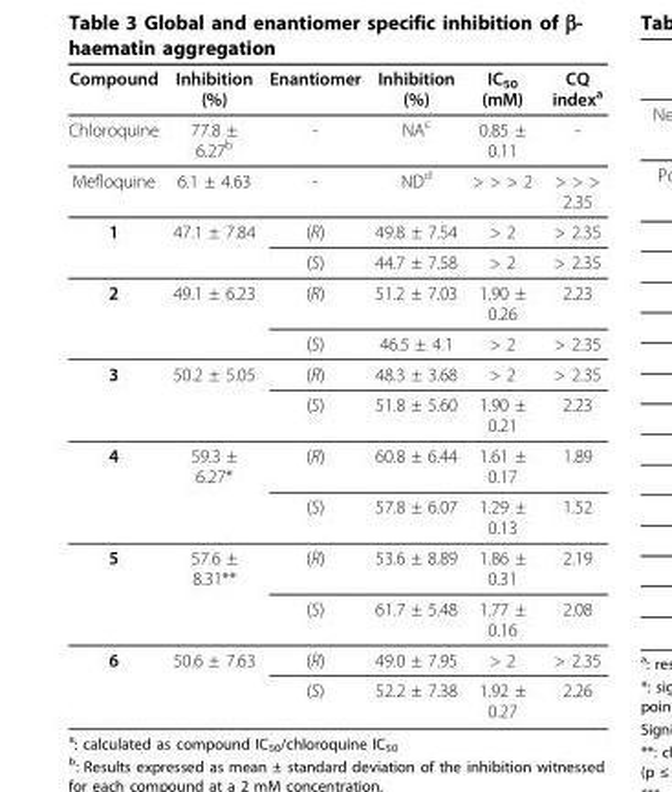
<table><thead><tr><td>Compound</td><td>Inhibition (%)</td><td>Enantiomer</td><td>Inhibition (%)</td><td>IC<sub>50</sub> (mM)</td><td>CQ index<sup>a</sup></td></tr></thead><tbody><tr><td>Chloroquine</td><td>77.8 ± 6.27<sup>b</sup></td><td>-</td><td>NA<sup>c</sup></td><td>0.85 ± 0.11</td><td>-</td></tr><tr><td>Mefloquine</td><td>6.1 ± 4.63</td><td>-</td><td>ND<sup>d</sup></td><td>&gt; &gt; &gt; 2</td><td>&gt; &gt; &gt; 2.35</td></tr><tr><td rowspan="2">1</td><td>47.1 ± 7.84</td><td>(R)</td><td>49.8 ± 7.54</td><td>&gt; 2</td><td>&gt; 2.35</td></tr><tr><td></td><td>(S)</td><td>44.7 ± 7.58</td><td>&gt; 2</td><td>&gt; 2.35</td></tr><tr><td rowspan="2">2</td><td>49.1 ± 6.23</td><td>(R)</td><td>51.2 ± 7.03</td><td>1.90 ± 0.26</td><td>2.23</td></tr><tr><td></td><td>(S)</td><td>46.5 ± 4.1</td><td>&gt; 2</td><td>&gt; 2.35</td></tr><tr><td rowspan="2">3</td><td>50.2 ± 5.05</td><td>(R)</td><td>48.3 ± 3.68</td><td>&gt; 2</td><td>&gt; 2.35</td></tr><tr><td></td><td>(S)</td><td>51.8 ± 5.60</td><td>1.90 ± 0.21</td><td>2.23</td></tr><tr><td rowspan="2">4</td><td>59.3 ± 6.27*</td><td>(R)</td><td>60.8 ± 6.44</td><td>1.61 ± 0.17</td><td>1.89</td></tr><tr><td></td><td>(S)</td><td>57.8 ± 6.07</td><td>1.29 ± 0.13</td><td>1.52</td></tr><tr><td rowspan="2">5</td><td>57.6 ± 8.31**</td><td>(R)</td><td>53.6 ± 8.89</td><td>1.86 ± 0.31</td><td>2.19</td></tr><tr><td></td><td>(S)</td><td>61.7 ± 5.48</td><td>1.77 ± 0.16</td><td>2.08</td></tr><tr><td rowspan="2">6</td><td>50.6 ± 7.63</td><td>(R)</td><td>49.0 ± 7.95</td><td>&gt; 2</td><td>&gt; 2.35</td></tr><tr><td></td><td>(S)</td><td>52.2 ± 7.38</td><td>1.92 ± 0.27</td><td>2.26</td></tr></tbody></table>